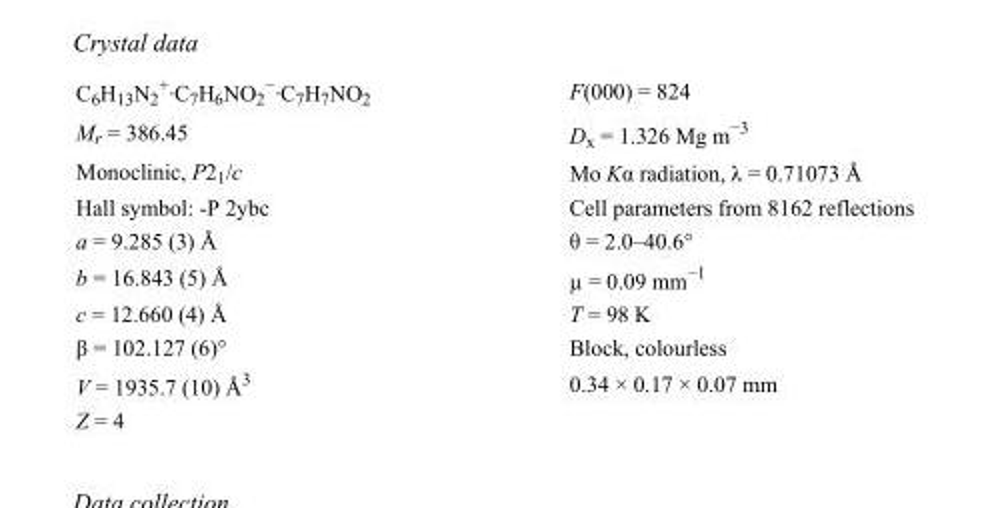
<table><tbody><tr><td>C<sub>6</sub>H<sub>13</sub>N<sub>2</sub> <sup>+</sup>·C<sub>7</sub>H<sub>6</sub>NO<sub>2</sub> <sup>−</sup>·C<sub>7</sub>H<sub>7</sub>NO<sub>2</sub></td><td>F(000) = 824</td></tr><tr><td>M<sub>r</sub> = 386.45</td><td>D<sub>x</sub> = 1.326 Mg m<sup>−3</sup></td></tr><tr><td>Monoclinic, P2<sub>1</sub>/c</td><td>Mo Kα radiation, λ = 0.71073 Å</td></tr><tr><td>Hall symbol: -P 2ybc</td><td>Cell parameters from 8162 reflections</td></tr><tr><td>a = 9.285 (3) Å</td><td>θ = 2.0–40.6°</td></tr><tr><td>b = 16.843 (5) Å</td><td>µ = 0.09 mm<sup>−1</sup></td></tr><tr><td>c = 12.660 (4) Å</td><td>T = 98 K</td></tr><tr><td>β = 102.127 (6)°</td><td>Block, colourless</td></tr><tr><td>V = 1935.7 (10) Å<sup>3</sup></td><td>0.34 × 0.17 × 0.07 mm</td></tr><tr><td>Z = 4</td><td></td></tr></tbody></table>